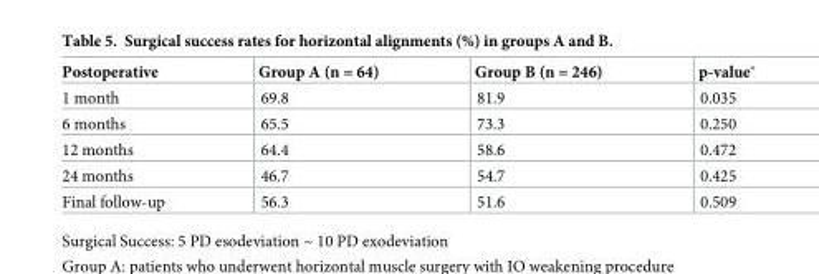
<table><thead><tr><td>Postoperative</td><td>Group A (n = 64)</td><td>Group B (n = 246)</td><td>p-value*</td></tr></thead><tbody><tr><td>1 month</td><td>69.8</td><td>81.9</td><td>0.035</td></tr><tr><td>6 months</td><td>65.5</td><td>73.3</td><td>0.250</td></tr><tr><td>12 months</td><td>64.4</td><td>58.6</td><td>0.472</td></tr><tr><td>24 months</td><td>46.7</td><td>54.7</td><td>0.425</td></tr><tr><td>Final follow-up</td><td>56.3</td><td>51.6</td><td>0.509</td></tr></tbody></table>